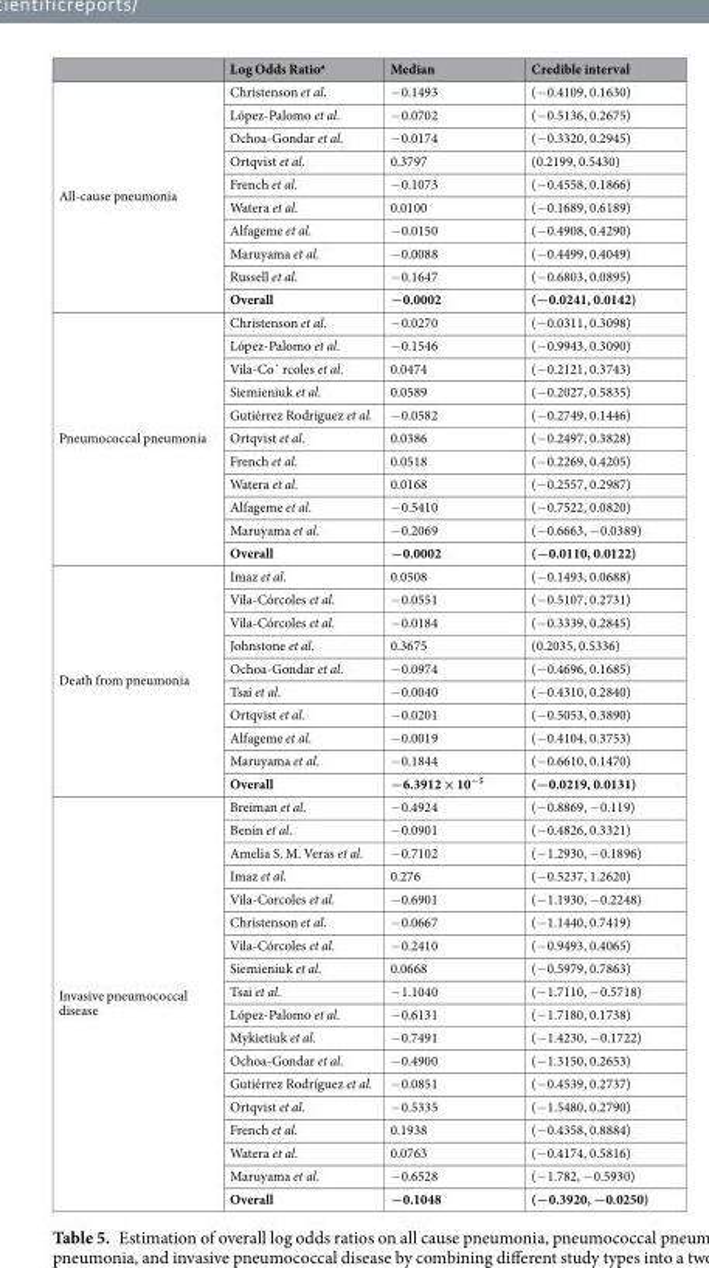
<table><thead><tr><td></td><td>Log Odds Ratio<sup>a</sup></td><td>Median</td><td>Credible interval</td></tr></thead><tbody><tr><td rowspan="10">All-cause pneumonia</td><td>Christenson et al.</td><td>−0.1493</td><td>(−0.4109, 0.1630)</td></tr><tr><td>López-Palomo et al.</td><td>−0.0702</td><td>(−0.5136, 0.2675)</td></tr><tr><td>Ochoa-Gondar et al.</td><td>−0.0174</td><td>(−0.3320, 0.2945)</td></tr><tr><td>Ortqvist et al.</td><td>0.3797</td><td>(0.2199, 0.5430)</td></tr><tr><td>French et al.</td><td>−0.1073</td><td>(−0.4558, 0.1866)</td></tr><tr><td>Watera et al.</td><td>0.0100</td><td>(−0.1689, 0.6189)</td></tr><tr><td>Alfageme et al.</td><td>−0.0150</td><td>(−0.4908, 0.4290)</td></tr><tr><td>Maruyama et al.</td><td>−0.0088</td><td>(−0.4499, 0.4049)</td></tr><tr><td>Russell et al.</td><td>−0.1647</td><td>(−0.6803, 0.0895)</td></tr><tr><td>Overall</td><td>−0.0002</td><td>(−0.0241, 0.0142)</td></tr><tr><td rowspan="11">Pneumococcal pneumonia</td><td>Christenson et al.</td><td>−0.0270</td><td>(−0.0311, 0.3098)</td></tr><tr><td>López-Palomo et al.</td><td>−0.1546</td><td>(−0.9943, 0.3090)</td></tr><tr><td>Vila-Co´ rcoles et al.</td><td>0.0474</td><td>(−0.2121, 0.3743)</td></tr><tr><td>Siemieniuk et al.</td><td>0.0589</td><td>(−0.2027, 0.5835)</td></tr><tr><td>Gutiérrez Rodríguez et al.</td><td>−0.0582</td><td>(−0.2749, 0.1446)</td></tr><tr><td>Ortqvist et al.</td><td>0.0386</td><td>(−0.2497, 0.3828)</td></tr><tr><td>French et al.</td><td>0.0518</td><td>(−0.2269, 0.4205)</td></tr><tr><td>Watera et al.</td><td>0.0168</td><td>(−0.2557, 0.2987)</td></tr><tr><td>Alfageme et al.</td><td>−0.5410</td><td>(−0.7522, 0.0820)</td></tr><tr><td>Maruyama et al.</td><td>−0.2069</td><td>(−0.6663, −0.0389)</td></tr><tr><td>Overall</td><td>−0.0002</td><td>(−0.0110, 0.0122)</td></tr><tr><td rowspan="10">Death from pneumonia</td><td>Imaz et al.</td><td>0.0508</td><td>(−0.1493, 0.0688)</td></tr><tr><td>Vila-Córcoles et al.</td><td>−0.0551</td><td>(−0.5107, 0.2731)</td></tr><tr><td>Vila-Córcoles et al.</td><td>−0.0184</td><td>(−0.3339, 0.2845)</td></tr><tr><td>Johnstone et al.</td><td>0.3675</td><td>(0.2035, 0.5336)</td></tr><tr><td>Ochoa-Gondar et al.</td><td>−0.0974</td><td>(−0.4696, 0.1685)</td></tr><tr><td>Tsai et al.</td><td>−0.0040</td><td>(−0.4310, 0.2840)</td></tr><tr><td>Ortqvist et al.</td><td>−0.0201</td><td>(−0.5053, 0.3890)</td></tr><tr><td>Alfageme et al.</td><td>−0.0019</td><td>(−0.4104, 0.3753)</td></tr><tr><td>Maruyama et al.</td><td>−0.1844</td><td>(−0.6610, 0.1470)</td></tr><tr><td>Overall</td><td>−6.3912 × 10<sup>−5</sup></td><td>(−0.0219, 0.0131)</td></tr><tr><td rowspan="18">Invasive pneumococcal disease</td><td>Breiman et al.</td><td>−0.4924</td><td>(−0.8869, −0.119)</td></tr><tr><td>Benin et al.</td><td>−0.0901</td><td>(−0.4826, 0.3321)</td></tr><tr><td>Amelia S. M. Veras et al.</td><td>−0.7102</td><td>(−1.2930, −0.1896)</td></tr><tr><td>Imaz et al.</td><td>0.276</td><td>(−0.5237, 1.2620)</td></tr><tr><td>Vila-Corcoles et al.</td><td>−0.6901</td><td>(−1.1930, −0.2248)</td></tr><tr><td>Christenson et al.</td><td>−0.0667</td><td>(−1.1440, 0.7419)</td></tr><tr><td>Vila-Córcoles et al.</td><td>−0.2410</td><td>(−0.9493, 0.4065)</td></tr><tr><td>Siemieniuk et al.</td><td>0.0668</td><td>(−0.5979, 0.7863)</td></tr><tr><td>Tsai et al.</td><td>−1.1040</td><td>(−1.7110, −0.5718)</td></tr><tr><td>López-Palomo et al.</td><td>−0.6131</td><td>(−1.7180, 0.1738)</td></tr><tr><td>Mykietiuk et al.</td><td>−0.7491</td><td>(−1.4230, −0.1722)</td></tr><tr><td>Ochoa-Gondar et al.</td><td>−0.4900</td><td>(−1.3150, 0.2653)</td></tr><tr><td>Gutiérrez Rodríguez et al.</td><td>−0.0851</td><td>(−0.4539, 0.2737)</td></tr><tr><td>Ortqvist et al.</td><td>−0.5335</td><td>(−1.5480, 0.2790)</td></tr><tr><td>French et al.</td><td>0.1938</td><td>(−0.4358, 0.8884)</td></tr><tr><td>Watera et al.</td><td>0.0763</td><td>(−0.4174, 0.5816)</td></tr><tr><td>Maruyama et al.</td><td>−0.6528</td><td>(−1.782, −0.5930)</td></tr><tr><td>Overall</td><td>−0.1048</td><td>(−0.3920, −0.0250)</td></tr></tbody></table>